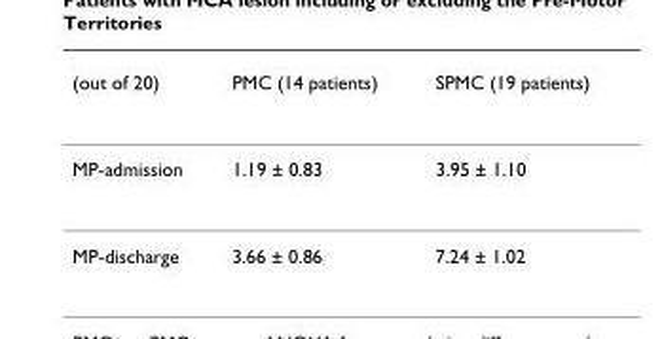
<table><thead><tr><td>(out of 20)</td><td>PMC (14 patients)</td><td>SPMC (19 patients)</td></tr></thead><tbody><tr><td>MP-admission</td><td>1.19 ± 0.83</td><td>3.95 ± 1.10</td></tr><tr><td>MP-discharge</td><td>3.66 ± 0.86</td><td>7.24 ± 1.02</td></tr></tbody></table>